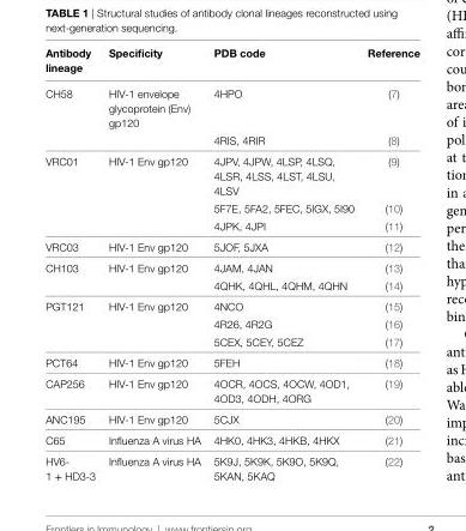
<table><thead><tr><td>Antibody lineage</td><td>Specificity</td><td>PDB code</td><td>Reference</td></tr></thead><tbody><tr><td rowspan="2">CH58</td><td>HIV-1 envelope glycoprotein (Env) gp120</td><td>4HPO</td><td>(7)</td></tr><tr><td></td><td>4RIS, 4RIR</td><td>(8)</td></tr><tr><td rowspan="3">VRC01</td><td>HIV-1 Env gp120</td><td>4JPV, 4JPW, 4LSP, 4LSQ, 4LSR, 4LSS, 4LST, 4LSU, 4LSV</td><td>(9)</td></tr><tr><td></td><td>5F7E, 5FA2, 5FEC, 5IGX, 5I90</td><td>(10)</td></tr><tr><td></td><td>4JPK, 4JPI</td><td>(11)</td></tr><tr><td>VRC03</td><td>HIV-1 Env gp120</td><td>5JOF, 5JXA</td><td>(12)</td></tr><tr><td rowspan="2">CH103</td><td>HIV-1 Env gp120</td><td>4JAM, 4JAN</td><td>(13)</td></tr><tr><td></td><td>4QHK, 4QHL, 4QHM, 4QHN</td><td>(14)</td></tr><tr><td rowspan="3">PGT121</td><td>HIV-1 Env gp120</td><td>4NCO</td><td>(15)</td></tr><tr><td></td><td>4R26, 4R2G</td><td>(16)</td></tr><tr><td></td><td>5CEX, 5CEY, 5CEZ</td><td>(17)</td></tr><tr><td>PCT64</td><td>HIV-1 Env gp120</td><td>5FEH</td><td>(18)</td></tr><tr><td>CAP256</td><td>HIV-1 Env gp120</td><td>4OCR, 4OCS, 4OCW, 4OD1, 4OD3, 4ODH, 4ORG</td><td>(19)</td></tr><tr><td>ANC195</td><td>HIV-1 Env gp120</td><td>5CJX</td><td>(20)</td></tr><tr><td>C65</td><td>Influenza A virus HA</td><td>4HK0, 4HK3, 4HKB, 4HKX</td><td>(21)</td></tr><tr><td>HV6- 1 + HD3-3</td><td>Influenza A virus HA</td><td>5K9J, 5K9K, 5K9O, 5K9Q, 5KAN, 5KAQ</td><td>(22)</td></tr></tbody></table>